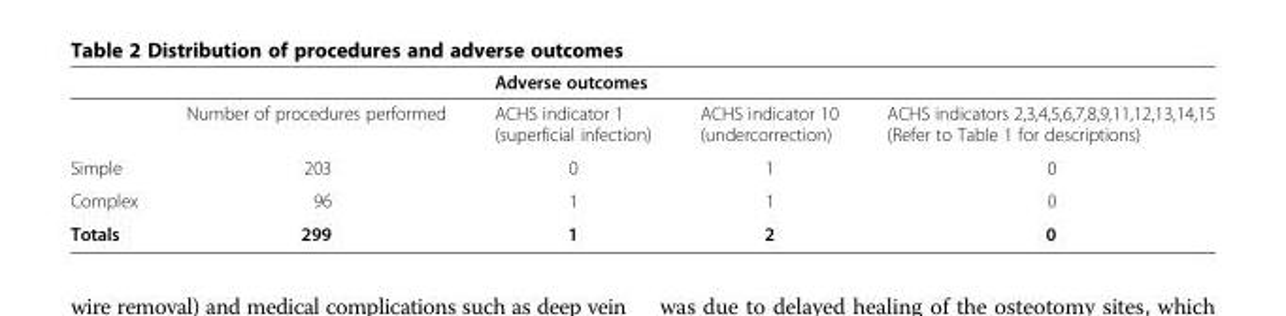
<table><thead><tr><td rowspan="2"></td><td rowspan="2">Number of procedures performed</td><td colspan="3">Adverse outcomes</td></tr><tr><td>ACHS indicator 1 (superficial infection)</td><td>ACHS indicator 10 (undercorrection)</td><td>ACHS indicators 2,3,4,5,6,7,8,9,11,12,13,14,15 (Refer to Table 1 for descriptions)</td></tr></thead><tbody><tr><td>Simple</td><td>203</td><td>0</td><td>1</td><td>0</td></tr><tr><td>Complex</td><td>96</td><td>1</td><td>1</td><td>0</td></tr><tr><td>Totals</td><td>299</td><td>1</td><td>2</td><td>0</td></tr></tbody></table>